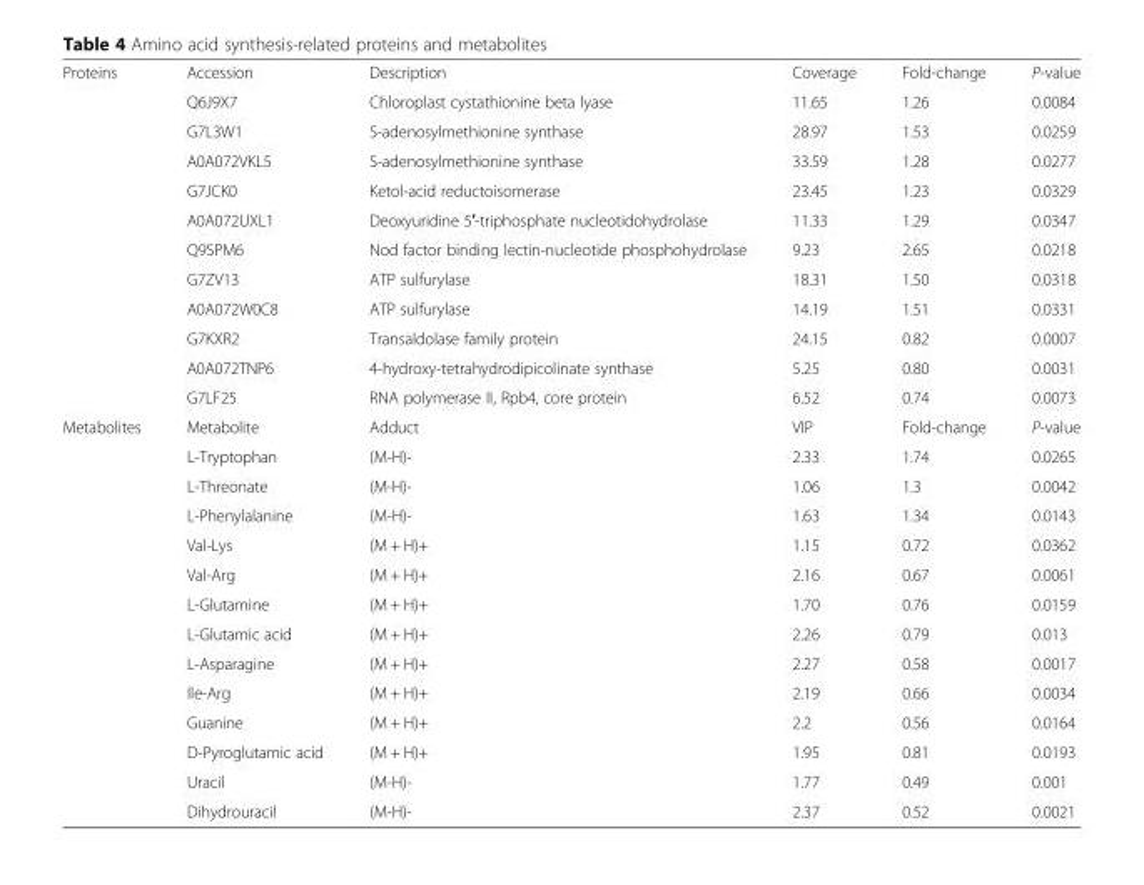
<table><tbody><tr><td rowspan="12">Proteins</td><td>Accession</td><td>Description</td><td>Coverage</td><td>Fold-change</td><td>P-value</td></tr><tr><td>Q6J9X7</td><td>Chloroplast cystathionine beta lyase</td><td>11.65</td><td>1.26</td><td>0.0084</td></tr><tr><td>G7L3W1</td><td>S-adenosylmethionine synthase</td><td>28.97</td><td>1.53</td><td>0.0259</td></tr><tr><td>A0A072VKL5</td><td>S-adenosylmethionine synthase</td><td>33.59</td><td>1.28</td><td>0.0277</td></tr><tr><td>G7JCK0</td><td>Ketol-acid reductoisomerase</td><td>23.45</td><td>1.23</td><td>0.0329</td></tr><tr><td>A0A072UXL1</td><td>Deoxyuridine 5′-triphosphate nucleotidohydrolase</td><td>11.33</td><td>1.29</td><td>0.0347</td></tr><tr><td>Q9SPM6</td><td>Nod factor binding lectin-nucleotide phosphohydrolase</td><td>9.23</td><td>2.65</td><td>0.0218</td></tr><tr><td>G7ZV13</td><td>ATP sulfurylase</td><td>18.31</td><td>1.50</td><td>0.0318</td></tr><tr><td>A0A072W0C8</td><td>ATP sulfurylase</td><td>14.19</td><td>1.51</td><td>0.0331</td></tr><tr><td>G7KXR2</td><td>Transaldolase family protein</td><td>24.15</td><td>0.82</td><td>0.0007</td></tr><tr><td>A0A072TNP6</td><td>4-hydroxy-tetrahydrodipicolinate synthase</td><td>5.25</td><td>0.80</td><td>0.0031</td></tr><tr><td>G7LF25</td><td>RNA polymerase II, Rpb4, core protein</td><td>6.52</td><td>0.74</td><td>0.0073</td></tr><tr><td rowspan="14">Metabolites</td><td>Metabolite</td><td>Adduct</td><td>VIP</td><td>Fold-change</td><td>P-value</td></tr><tr><td>L-Tryptophan</td><td>(M-H)-</td><td>2.33</td><td>1.74</td><td>0.0265</td></tr><tr><td>L-Threonate</td><td>(M-H)-</td><td>1.06</td><td>1.3</td><td>0.0042</td></tr><tr><td>L-Phenylalanine</td><td>(M-H)-</td><td>1.63</td><td>1.34</td><td>0.0143</td></tr><tr><td>Val-Lys</td><td>(M + H)+</td><td>1.15</td><td>0.72</td><td>0.0362</td></tr><tr><td>Val-Arg</td><td>(M + H)+</td><td>2.16</td><td>0.67</td><td>0.0061</td></tr><tr><td>L-Glutamine</td><td>(M + H)+</td><td>1.70</td><td>0.76</td><td>0.0159</td></tr><tr><td>L-Glutamic acid</td><td>(M + H)+</td><td>2.26</td><td>0.79</td><td>0.013</td></tr><tr><td>L-Asparagine</td><td>(M + H)+</td><td>2.27</td><td>0.58</td><td>0.0017</td></tr><tr><td>Ile-Arg</td><td>(M + H)+</td><td>2.19</td><td>0.66</td><td>0.0034</td></tr><tr><td>Guanine</td><td>(M + H)+</td><td>2.2</td><td>0.56</td><td>0.0164</td></tr><tr><td>D-Pyroglutamic acid</td><td>(M + H)+</td><td>1.95</td><td>0.81</td><td>0.0193</td></tr><tr><td>Uracil</td><td>(M-H)-</td><td>1.77</td><td>0.49</td><td>0.001</td></tr><tr><td>Dihydrouracil</td><td>(M-H)-</td><td>2.37</td><td>0.52</td><td>0.0021</td></tr></tbody></table>